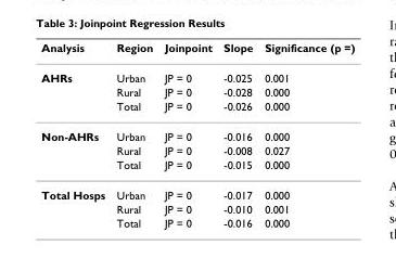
<table><thead><tr><td>Analysis</td><td>Region</td><td>Joinpoint</td><td>Slope</td><td>Significance (p =)</td></tr></thead><tbody><tr><td rowspan="3">AHRs</td><td>Urban</td><td>JP = 0</td><td>-0.025</td><td>0.001</td></tr><tr><td>Rural</td><td>JP = 0</td><td>-0.028</td><td>0.000</td></tr><tr><td>Total</td><td>JP = 0</td><td>-0.026</td><td>0.000</td></tr><tr><td rowspan="3">Non-AHRs</td><td>Urban</td><td>JP = 0</td><td>-0.016</td><td>0.000</td></tr><tr><td>Rural</td><td>JP = 0</td><td>-0.008</td><td>0.027</td></tr><tr><td>Total</td><td>JP = 0</td><td>-0.015</td><td>0.000</td></tr><tr><td rowspan="3">Total Hosps</td><td>Urban</td><td>JP = 0</td><td>-0.017</td><td>0.000</td></tr><tr><td>Rural</td><td>JP = 0</td><td>-0.010</td><td>0.001</td></tr><tr><td>Total</td><td>JP = 0</td><td>-0.016</td><td>0.000</td></tr></tbody></table>